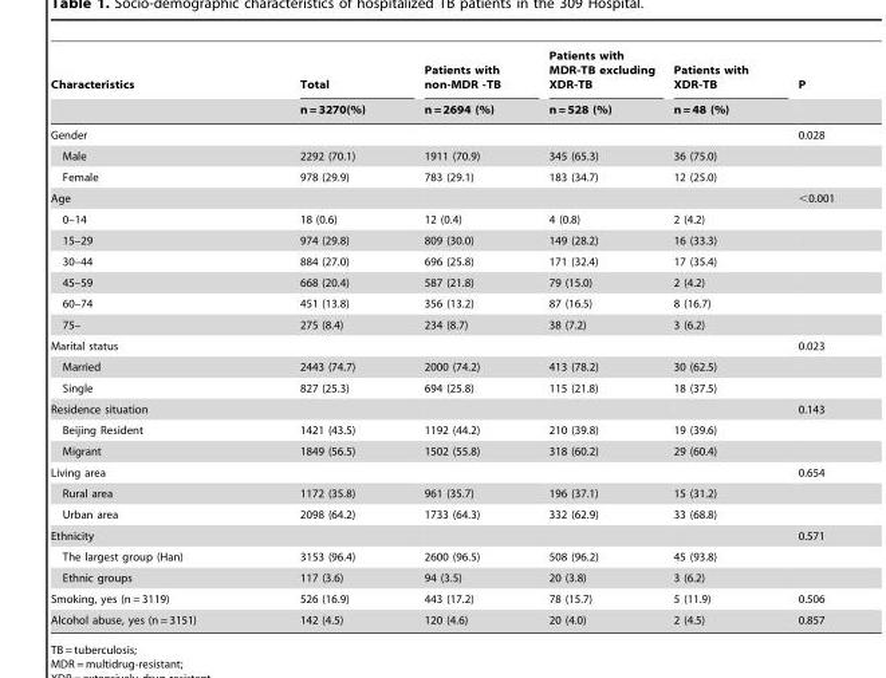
<table><thead><tr><td rowspan="2">Characteristics</td><td rowspan="2">Total n = 3270(%)</td><td rowspan="2">Patients with non-MDR -TB n = 2694 (%)</td><td rowspan="2">Patients with MDR-TB excluding XDR-TB n = 528 (%)</td><td rowspan="2">Patients with XDR-TB n = 48 (%)</td><td rowspan="2">P</td></tr><tr></tr></thead><tbody><tr><td>Gender</td><td></td><td></td><td></td><td></td><td>0.028</td></tr><tr><td>Male</td><td>2292 (70.1)</td><td>1911 (70.9)</td><td>345 (65.3)</td><td>36 (75.0)</td><td></td></tr><tr><td>Female</td><td>978 (29.9)</td><td>783 (29.1)</td><td>183 (34.7)</td><td>12 (25.0)</td><td></td></tr><tr><td>Age</td><td></td><td></td><td></td><td></td><td>&lt;0.001</td></tr><tr><td>0–14</td><td>18 (0.6)</td><td>12 (0.4)</td><td>4 (0.8)</td><td>2 (4.2)</td><td></td></tr><tr><td>15–29</td><td>974 (29.8)</td><td>809 (30.0)</td><td>149 (28.2)</td><td>16 (33.3)</td><td></td></tr><tr><td>30–44</td><td>884 (27.0)</td><td>696 (25.8)</td><td>171 (32.4)</td><td>17 (35.4)</td><td></td></tr><tr><td>45–59</td><td>668 (20.4)</td><td>587 (21.8)</td><td>79 (15.0)</td><td>2 (4.2)</td><td></td></tr><tr><td>60–74</td><td>451 (13.8)</td><td>356 (13.2)</td><td>87 (16.5)</td><td>8 (16.7)</td><td></td></tr><tr><td>75–</td><td>275 (8.4)</td><td>234 (8.7)</td><td>38 (7.2)</td><td>3 (6.2)</td><td></td></tr><tr><td>Marital status</td><td></td><td></td><td></td><td></td><td>0.023</td></tr><tr><td>Married</td><td>2443 (74.7)</td><td>2000 (74.2)</td><td>413 (78.2)</td><td>30 (62.5)</td><td></td></tr><tr><td>Single</td><td>827 (25.3)</td><td>694 (25.8)</td><td>115 (21.8)</td><td>18 (37.5)</td><td></td></tr><tr><td>Residence situation</td><td></td><td></td><td></td><td></td><td>0.143</td></tr><tr><td>Beijing Resident</td><td>1421 (43.5)</td><td>1192 (44.2)</td><td>210 (39.8)</td><td>19 (39.6)</td><td></td></tr><tr><td>Migrant</td><td>1849 (56.5)</td><td>1502 (55.8)</td><td>318 (60.2)</td><td>29 (60.4)</td><td></td></tr><tr><td>Living area</td><td></td><td></td><td></td><td></td><td>0.654</td></tr><tr><td>Rural area</td><td>1172 (35.8)</td><td>961 (35.7)</td><td>196 (37.1)</td><td>15 (31.2)</td><td></td></tr><tr><td>Urban area</td><td>2098 (64.2)</td><td>1733 (64.3)</td><td>332 (62.9)</td><td>33 (68.8)</td><td></td></tr><tr><td>Ethnicity</td><td></td><td></td><td></td><td></td><td>0.571</td></tr><tr><td>The largest group (Han)</td><td>3153 (96.4)</td><td>2600 (96.5)</td><td>508 (96.2)</td><td>45 (93.8)</td><td></td></tr><tr><td>Ethnic groups</td><td>117 (3.6)</td><td>94 (3.5)</td><td>20 (3.8)</td><td>3 (6.2)</td><td></td></tr><tr><td>Smoking, yes (n = 3119)</td><td>526 (16.9)</td><td>443 (17.2)</td><td>78 (15.7)</td><td>5 (11.9)</td><td>0.506</td></tr><tr><td>Alcohol abuse, yes (n = 3151)</td><td>142 (4.5)</td><td>120 (4.6)</td><td>20 (4.0)</td><td>2 (4.5)</td><td>0.857</td></tr></tbody></table>